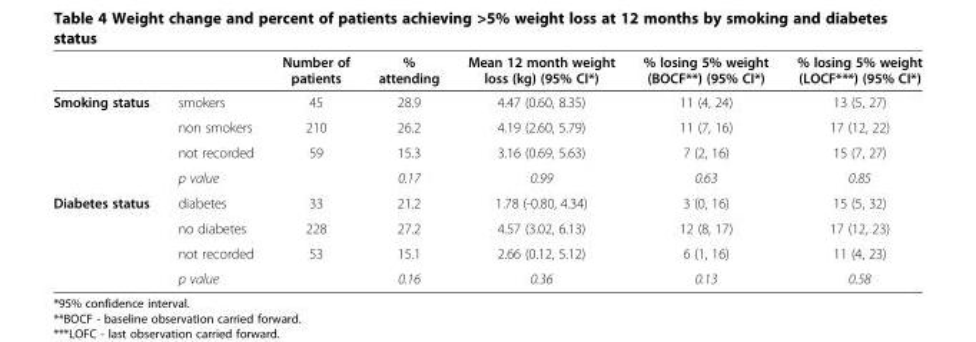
<table><thead><tr><td></td><td></td><td>Number of patients</td><td>% attending</td><td>Mean 12 month weight loss (kg) (95% CI*)</td><td>% losing 5% weight (BOCF**) (95% CI*)</td><td>% losing 5% weight (LOCF***) (95% CI*)</td></tr></thead><tbody><tr><td rowspan="4">Smoking status</td><td>smokers</td><td>45</td><td>28.9</td><td>4.47 (0.60, 8.35)</td><td>11 (4, 24)</td><td>13 (5, 27)</td></tr><tr><td>non smokers</td><td>210</td><td>26.2</td><td>4.19 (2.60, 5.79)</td><td>11 (7, 16)</td><td>17 (12, 22)</td></tr><tr><td>not recorded</td><td>59</td><td>15.3</td><td>3.16 (0.69, 5.63)</td><td>7 (2, 16)</td><td>15 (7, 27)</td></tr><tr><td>p value</td><td></td><td>0.17</td><td>0.99</td><td>0.63</td><td>0.85</td></tr><tr><td rowspan="4">Diabetes status</td><td>diabetes</td><td>33</td><td>21.2</td><td>1.78 (-0.80, 4.34)</td><td>3 (0, 16)</td><td>15 (5, 32)</td></tr><tr><td>no diabetes</td><td>228</td><td>27.2</td><td>4.57 (3.02, 6.13)</td><td>12 (8, 17)</td><td>17 (12, 23)</td></tr><tr><td>not recorded</td><td>53</td><td>15.1</td><td>2.66 (0.12, 5.12)</td><td>6 (1, 16)</td><td>11 (4, 23)</td></tr><tr><td>p value</td><td></td><td>0.16</td><td>0.36</td><td>0.13</td><td>0.58</td></tr></tbody></table>